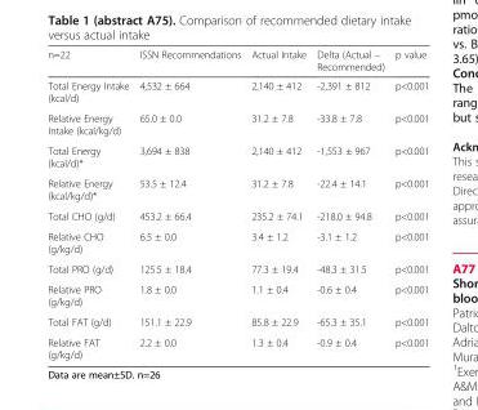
<table><thead><tr><td>n=22</td><td>ISSN Recommendations</td><td>Actual Intake</td><td>Delta (Actual – Recommended)</td><td>p value</td></tr></thead><tbody><tr><td>Total Energy Intake (kcal/d)</td><td>4,532 ± 664</td><td>2,140 ± 412</td><td>-2,391 ± 812</td><td>p&lt;0.001</td></tr><tr><td>Relative Energy Intake (kcal/kg/d)</td><td>65.0 ± 0.0</td><td>31.2 ± 7.8</td><td>-33.8 ± 7.8</td><td>p&lt;0.001</td></tr><tr><td>Total Energy (kcal/d)*</td><td>3,694 ± 838</td><td>2,140 ± 412</td><td>-1,553 ± 967</td><td>p&lt;0.001</td></tr><tr><td>Relative Energy (kcal/kg/d)*</td><td>53.5 ± 12.4</td><td>31.2 ± 7.8</td><td>-22.4 ± 14.1</td><td>p&lt;0.001</td></tr><tr><td>Total CHO (g/d)</td><td>453.2 ± 66.4</td><td>235.2 ± 74.1</td><td>-218.0 ± 94.8</td><td>p&lt;0.001</td></tr><tr><td>Relative CHO (g/kg/d)</td><td>6.5 ± 0.0</td><td>3.4 ± 1.2</td><td>-3.1 ± 1.2</td><td>p&lt;0.001</td></tr><tr><td>Total PRO (g/d)</td><td>125.5 ± 18.4</td><td>77.3 ± 19.4</td><td>-48.3 ± 31.5</td><td>p&lt;0.001</td></tr><tr><td>Relative PRO (g/kg/d)</td><td>1.8 ± 0.0</td><td>1.1 ± 0.4</td><td>-0.6 ± 0.4</td><td>p&lt;0.001</td></tr><tr><td>Total FAT (g/d)</td><td>151.1 ± 22.9</td><td>85.8 ± 22.9</td><td>-65.3 ± 35.1</td><td>p&lt;0.001</td></tr><tr><td>Relative FAT (g/kg/d)</td><td>2.2 ± 0.0</td><td>1.3 ± 0.4</td><td>-0.9 ± 0.4</td><td>p&lt;0.001</td></tr></tbody></table>